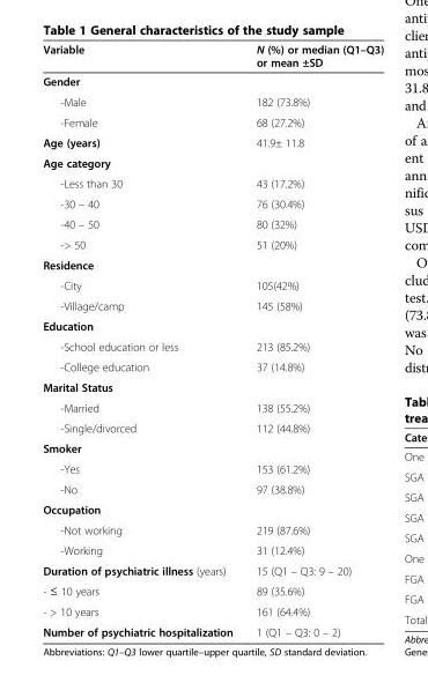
<table><thead><tr><td>Variable</td><td>N (%) or median (Q1–Q3) or mean ±SD</td></tr></thead><tbody><tr><td colspan="2">Gender</td></tr><tr><td>-Male</td><td>182 (73.8%)</td></tr><tr><td>-Female</td><td>68 (27.2%)</td></tr><tr><td>Age (years)</td><td>41.9± 11.8</td></tr><tr><td colspan="2">Age category</td></tr><tr><td>-Less than 30</td><td>43 (17.2%)</td></tr><tr><td>-30 – 40</td><td>76 (30.4%)</td></tr><tr><td>-40 – 50</td><td>80 (32%)</td></tr><tr><td>-&gt; 50</td><td>51 (20%)</td></tr><tr><td colspan="2">Residence</td></tr><tr><td>-City</td><td>105(42%)</td></tr><tr><td>-Village/camp</td><td>145 (58%)</td></tr><tr><td colspan="2">Education</td></tr><tr><td>-School education or less</td><td>213 (85.2%)</td></tr><tr><td>-College education</td><td>37 (14.8%)</td></tr><tr><td colspan="2">Marital Status</td></tr><tr><td>-Married</td><td>138 (55.2%)</td></tr><tr><td>-Single/divorced</td><td>112 (44.8%)</td></tr><tr><td colspan="2">Smoker</td></tr><tr><td>-Yes</td><td>153 (61.2%)</td></tr><tr><td>-No</td><td>97 (38.8%)</td></tr><tr><td colspan="2">Occupation</td></tr><tr><td>-Not working</td><td>219 (87.6%)</td></tr><tr><td>-Working</td><td>31 (12.4%)</td></tr><tr><td>Duration of psychiatric illness (years)</td><td>15 (Q1 – Q3: 9 – 20)</td></tr><tr><td>- ≤ 10 years</td><td>89 (35.6%)</td></tr><tr><td>- &gt; 10 years</td><td>161 (64.4%)</td></tr><tr><td>Number of psychiatric hospitalization</td><td>1 (Q1 – Q3: 0 – 2)</td></tr></tbody></table>